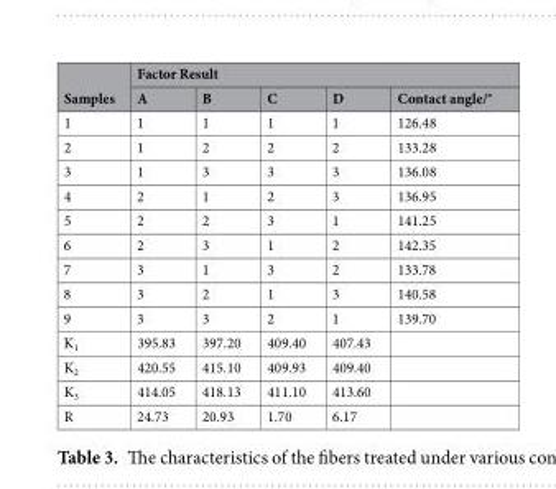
<table><thead><tr><td rowspan="2">Samples</td><td colspan="5">Factor Result</td></tr><tr><td>A</td><td>B</td><td>C</td><td>D</td><td>Contact angle/°</td></tr></thead><tbody><tr><td>1</td><td>1</td><td>1</td><td>1</td><td>1</td><td>126.48</td></tr><tr><td>2</td><td>1</td><td>2</td><td>2</td><td>2</td><td>133.28</td></tr><tr><td>3</td><td>1</td><td>3</td><td>3</td><td>3</td><td>136.08</td></tr><tr><td>4</td><td>2</td><td>1</td><td>2</td><td>3</td><td>136.95</td></tr><tr><td>5</td><td>2</td><td>2</td><td>3</td><td>1</td><td>141.25</td></tr><tr><td>6</td><td>2</td><td>3</td><td>1</td><td>2</td><td>142.35</td></tr><tr><td>7</td><td>3</td><td>1</td><td>3</td><td>2</td><td>133.78</td></tr><tr><td>8</td><td>3</td><td>2</td><td>1</td><td>3</td><td>140.58</td></tr><tr><td>9</td><td>3</td><td>3</td><td>2</td><td>1</td><td>139.70</td></tr><tr><td>K<sub>1</sub></td><td>395.83</td><td>397.20</td><td>409.40</td><td>407.43</td><td></td></tr><tr><td>K<sub>2</sub></td><td>420.55</td><td>415.10</td><td>409.93</td><td>409.40</td><td></td></tr><tr><td>K<sub>3</sub></td><td>414.05</td><td>418.13</td><td>411.10</td><td>413.60</td><td></td></tr><tr><td>R</td><td>24.73</td><td>20.93</td><td>1.70</td><td>6.17</td><td></td></tr></tbody></table>